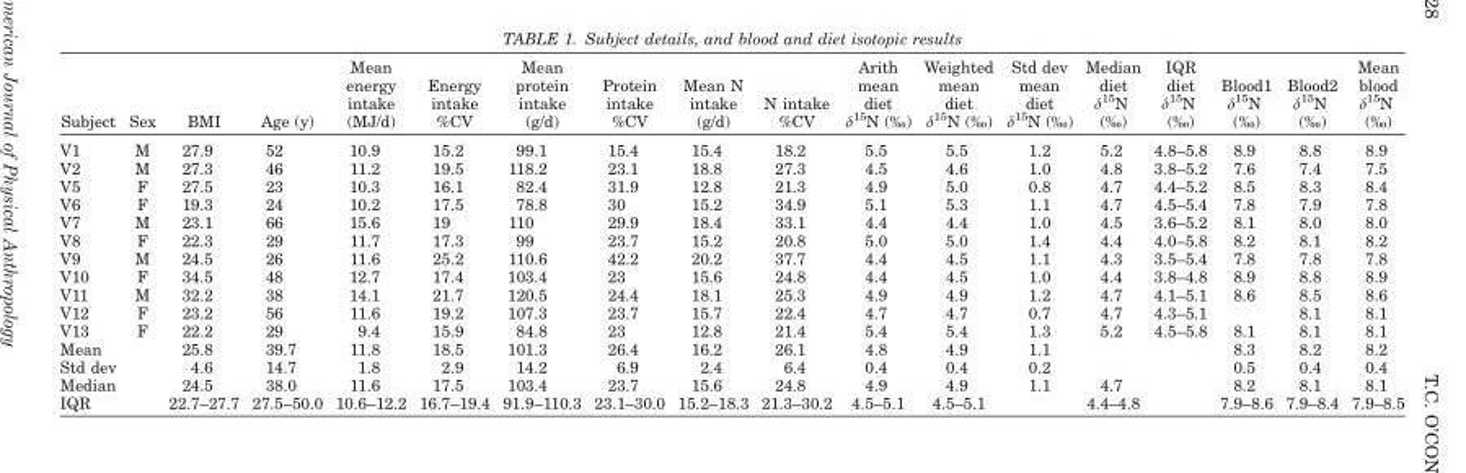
<table><thead><tr><td>Subject</td><td>Sex</td><td>BMI</td><td>Age (y)</td><td>Mean energy intake (MJ/d)</td><td>Energy intake %CV</td><td>Mean protein intake (g/d)</td><td>Protein intake %CV</td><td>Mean N intake (g/d)</td><td>N intake %CV</td><td>Arith mean diet δ<sup>15</sup>N (‰)</td><td>Weighted mean diet δ<sup>15</sup>N (‰)</td><td>Std dev mean diet δ<sup>15</sup>N (‰)</td><td>Median diet δ<sup>15</sup>N (‰)</td><td>IQR diet δ<sup>15</sup>N (‰)</td><td>Blood1 δ<sup>15</sup>N (‰)</td><td>Blood2 δ<sup>15</sup>N (‰)</td><td>Mean blood δ<sup>15</sup>N (‰)</td></tr></thead><tbody><tr><td>V1</td><td>M</td><td>27.9</td><td>52</td><td>10.9</td><td>15.2</td><td>99.1</td><td>15.4</td><td>15.4</td><td>18.2</td><td>5.5</td><td>5.5</td><td>1.2</td><td>5.2</td><td>4.8–5.8</td><td>8.9</td><td>8.8</td><td>8.9</td></tr><tr><td>V2</td><td>M</td><td>27.3</td><td>46</td><td>11.2</td><td>19.5</td><td>118.2</td><td>23.1</td><td>18.8</td><td>27.3</td><td>4.5</td><td>4.6</td><td>1.0</td><td>4.8</td><td>3.8–5.2</td><td>7.6</td><td>7.4</td><td>7.5</td></tr><tr><td>V5</td><td>F</td><td>27.5</td><td>23</td><td>10.3</td><td>16.1</td><td>82.4</td><td>31.9</td><td>12.8</td><td>21.3</td><td>4.9</td><td>5.0</td><td>0.8</td><td>4.7</td><td>4.4–5.2</td><td>8.5</td><td>8.3</td><td>8.4</td></tr><tr><td>V6</td><td>F</td><td>19.3</td><td>24</td><td>10.2</td><td>17.5</td><td>78.8</td><td>30</td><td>15.2</td><td>34.9</td><td>5.1</td><td>5.3</td><td>1.1</td><td>4.7</td><td>4.5–5.4</td><td>7.8</td><td>7.9</td><td>7.8</td></tr><tr><td>V7</td><td>M</td><td>23.1</td><td>66</td><td>15.6</td><td>19</td><td>110</td><td>29.9</td><td>18.4</td><td>33.1</td><td>4.4</td><td>4.4</td><td>1.0</td><td>4.5</td><td>3.6–5.2</td><td>8.1</td><td>8.0</td><td>8.0</td></tr><tr><td>V8</td><td>F</td><td>22.3</td><td>29</td><td>11.7</td><td>17.3</td><td>99</td><td>23.7</td><td>15.2</td><td>20.8</td><td>5.0</td><td>5.0</td><td>1.4</td><td>4.4</td><td>4.0–5.8</td><td>8.2</td><td>8.1</td><td>8.2</td></tr><tr><td>V9</td><td>M</td><td>24.5</td><td>26</td><td>11.6</td><td>25.2</td><td>110.6</td><td>42.2</td><td>20.2</td><td>37.7</td><td>4.4</td><td>4.5</td><td>1.1</td><td>4.3</td><td>3.5–5.4</td><td>7.8</td><td>7.8</td><td>7.8</td></tr><tr><td>V10</td><td>F</td><td>34.5</td><td>48</td><td>12.7</td><td>17.4</td><td>103.4</td><td>23</td><td>15.6</td><td>24.8</td><td>4.4</td><td>4.5</td><td>1.0</td><td>4.4</td><td>3.8–4.8</td><td>8.9</td><td>8.8</td><td>8.9</td></tr><tr><td>V11</td><td>M</td><td>32.2</td><td>38</td><td>14.1</td><td>21.7</td><td>120.5</td><td>24.4</td><td>18.1</td><td>25.3</td><td>4.9</td><td>4.9</td><td>1.2</td><td>4.7</td><td>4.1–5.1</td><td>8.6</td><td>8.5</td><td>8.6</td></tr><tr><td>V12</td><td>F</td><td>23.2</td><td>56</td><td>11.6</td><td>19.2</td><td>107.3</td><td>23.7</td><td>15.7</td><td>22.4</td><td>4.7</td><td>4.7</td><td>0.7</td><td>4.7</td><td>4.3–5.1</td><td></td><td>8.1</td><td>8.1</td></tr><tr><td>V13</td><td>F</td><td>22.2</td><td>29</td><td>9.4</td><td>15.9</td><td>84.8</td><td>23</td><td>12.8</td><td>21.4</td><td>5.4</td><td>5.4</td><td>1.3</td><td>5.2</td><td>4.5–5.8</td><td>8.1</td><td>8.1</td><td>8.1</td></tr><tr><td>Mean</td><td></td><td>25.8</td><td>39.7</td><td>11.8</td><td>18.5</td><td>101.3</td><td>26.4</td><td>16.2</td><td>26.1</td><td>4.8</td><td>4.9</td><td>1.1</td><td></td><td></td><td>8.3</td><td>8.2</td><td>8.2</td></tr><tr><td>Std dev</td><td></td><td>4.6</td><td>14.7</td><td>1.8</td><td>2.9</td><td>14.2</td><td>6.9</td><td>2.4</td><td>6.4</td><td>0.4</td><td>0.4</td><td>0.2</td><td></td><td></td><td>0.5</td><td>0.4</td><td>0.4</td></tr><tr><td>Median</td><td></td><td>24.5</td><td>38.0</td><td>11.6</td><td>17.5</td><td>103.4</td><td>23.7</td><td>15.6</td><td>24.8</td><td>4.9</td><td>4.9</td><td>1.1</td><td>4.7</td><td></td><td>8.2</td><td>8.1</td><td>8.1</td></tr><tr><td>IQR</td><td></td><td>22.7–27.7</td><td>27.5–50.0</td><td>10.6–12.2</td><td>16.7–19.4</td><td>91.9–110.3</td><td>23.1–30.0</td><td>15.2–18.3</td><td>21.3–30.2</td><td>4.5–5.1</td><td>4.5–5.1</td><td></td><td>4.4–4.8</td><td></td><td>7.9–8.6</td><td>7.9–8.4</td><td>7.9–8.5</td></tr></tbody></table>